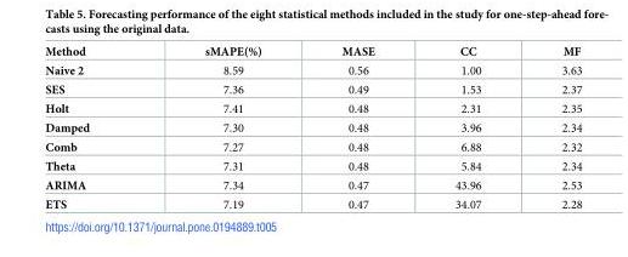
<table><thead><tr><td>Method</td><td>sMAPE(%)</td><td>MASE</td><td>CC</td><td>MF</td></tr></thead><tbody><tr><td>Naive 2</td><td>8.59</td><td>0.56</td><td>1.00</td><td>3.63</td></tr><tr><td>SES</td><td>7.36</td><td>0.49</td><td>1.53</td><td>2.37</td></tr><tr><td>Holt</td><td>7.41</td><td>0.48</td><td>2.31</td><td>2.35</td></tr><tr><td>Damped</td><td>7.30</td><td>0.48</td><td>3.96</td><td>2.34</td></tr><tr><td>Comb</td><td>7.27</td><td>0.48</td><td>6.88</td><td>2.32</td></tr><tr><td>Theta</td><td>7.31</td><td>0.48</td><td>5.84</td><td>2.34</td></tr><tr><td>ARIMA</td><td>7.34</td><td>0.47</td><td>43.96</td><td>2.53</td></tr><tr><td>ETS</td><td>7.19</td><td>0.47</td><td>34.07</td><td>2.28</td></tr></tbody></table>